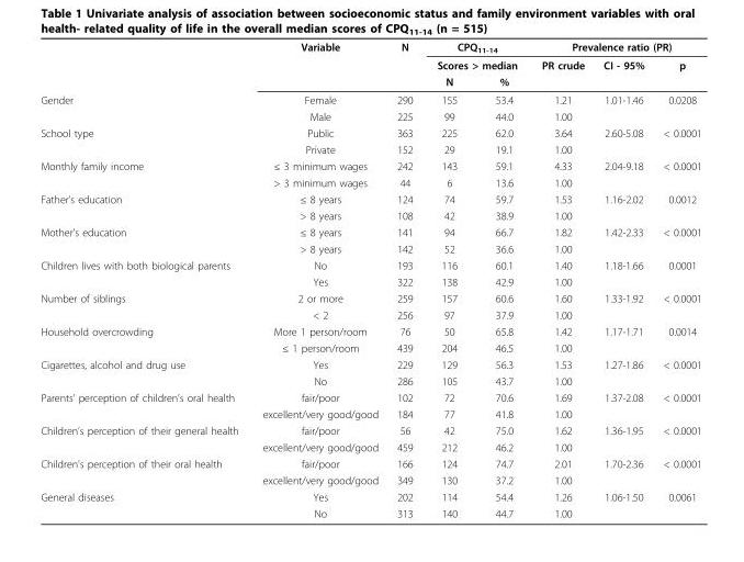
<table><thead><tr><td rowspan="3"></td><td rowspan="3">Variable</td><td rowspan="3">N</td><td rowspan="2" colspan="2">CPQ<sub>11-14</sub> Scores &gt; median</td><td colspan="3">Prevalence ratio (PR)</td></tr><tr><td rowspan="2">PR crude</td><td rowspan="2">CI - 95%</td><td rowspan="2">p</td></tr><tr><td>N</td><td>%</td></tr></thead><tbody><tr><td rowspan="2">Gender</td><td>Female</td><td>290</td><td>155</td><td>53.4</td><td>1.21</td><td>1.01-1.46</td><td>0.0208</td></tr><tr><td>Male</td><td>225</td><td>99</td><td>44.0</td><td>1.00</td><td></td><td></td></tr><tr><td rowspan="2">School type</td><td>Public</td><td>363</td><td>225</td><td>62.0</td><td>3.64</td><td>2.60-5.08</td><td>&lt; 0.0001</td></tr><tr><td>Private</td><td>152</td><td>29</td><td>19.1</td><td>1.00</td><td></td><td></td></tr><tr><td rowspan="2">Monthly family income</td><td>≤ 3 minimum wages</td><td>242</td><td>143</td><td>59.1</td><td>4.33</td><td>2.04-9.18</td><td>&lt; 0.0001</td></tr><tr><td>&gt; 3 minimum wages</td><td>44</td><td>6</td><td>13.6</td><td>1.00</td><td></td><td></td></tr><tr><td rowspan="2">Father’s education</td><td>≤ 8 years</td><td>124</td><td>74</td><td>59.7</td><td>1.53</td><td>1.16-2.02</td><td>0.0012</td></tr><tr><td>&gt; 8 years</td><td>108</td><td>42</td><td>38.9</td><td>1.00</td><td></td><td></td></tr><tr><td rowspan="2">Mother’s education</td><td>≤ 8 years</td><td>141</td><td>94</td><td>66.7</td><td>1.82</td><td>1.42-2.33</td><td>&lt; 0.0001</td></tr><tr><td>&gt; 8 years</td><td>142</td><td>52</td><td>36.6</td><td>1.00</td><td></td><td></td></tr><tr><td rowspan="2">Children lives with both biological parents</td><td>No</td><td>193</td><td>116</td><td>60.1</td><td>1.40</td><td>1.18-1.66</td><td>0.0001</td></tr><tr><td>Yes</td><td>322</td><td>138</td><td>42.9</td><td>1.00</td><td></td><td></td></tr><tr><td rowspan="2">Number of siblings</td><td>2 or more</td><td>259</td><td>157</td><td>60.6</td><td>1.60</td><td>1.33-1.92</td><td>&lt; 0.0001</td></tr><tr><td>&lt; 2</td><td>256</td><td>97</td><td>37.9</td><td>1.00</td><td></td><td></td></tr><tr><td rowspan="2">Household overcrowding</td><td>More 1 person/room</td><td>76</td><td>50</td><td>65.8</td><td>1.42</td><td>1.17-1.71</td><td>0.0014</td></tr><tr><td>≤ 1 person/room</td><td>439</td><td>204</td><td>46.5</td><td>1.00</td><td></td><td></td></tr><tr><td rowspan="2">Cigarettes, alcohol and drug use</td><td>Yes</td><td>229</td><td>129</td><td>56.3</td><td>1.53</td><td>1.27-1.86</td><td>&lt; 0.0001</td></tr><tr><td>No</td><td>286</td><td>105</td><td>43.7</td><td>1.00</td><td></td><td></td></tr><tr><td rowspan="2">Parents’ perception of children’s oral health</td><td>fair/poor</td><td>102</td><td>72</td><td>70.6</td><td>1.69</td><td>1.37-2.08</td><td>&lt; 0.0001</td></tr><tr><td>excellent/very good/good</td><td>184</td><td>77</td><td>41.8</td><td>1.00</td><td></td><td></td></tr><tr><td rowspan="2">Children’s perception of their general health</td><td>fair/poor</td><td>56</td><td>42</td><td>75.0</td><td>1.62</td><td>1.36-1.95</td><td>&lt; 0.0001</td></tr><tr><td>excellent/very good/good</td><td>459</td><td>212</td><td>46.2</td><td>1.00</td><td></td><td></td></tr><tr><td rowspan="2">Children’s perception of their oral health</td><td>fair/poor</td><td>166</td><td>124</td><td>74.7</td><td>2.01</td><td>1.70-2.36</td><td>&lt; 0.0001</td></tr><tr><td>excellent/very good/good</td><td>349</td><td>130</td><td>37.2</td><td>1.00</td><td></td><td></td></tr><tr><td rowspan="2">General diseases</td><td>Yes</td><td>202</td><td>114</td><td>54.4</td><td>1.26</td><td>1.06-1.50</td><td>0.0061</td></tr><tr><td>No</td><td>313</td><td>140</td><td>44.7</td><td>1.00</td><td></td><td></td></tr></tbody></table>